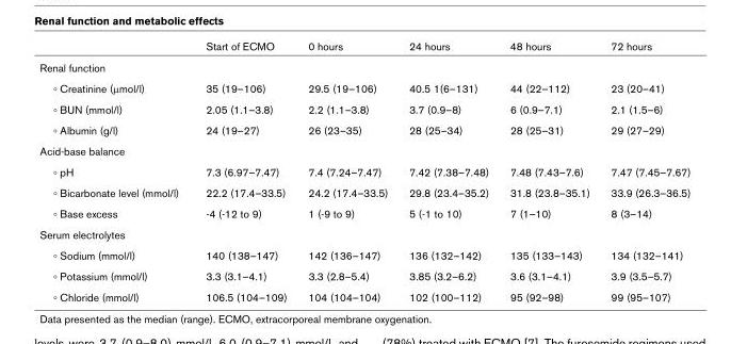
<table><thead><tr><td></td><td>Start of ECMO</td><td>0 hours</td><td>24 hours</td><td>48 hours</td><td>72 hours</td></tr></thead><tbody><tr><td colspan="6">Renal function</td></tr><tr><td>◦ Creatinine (μmol/l)</td><td>35 (19–106)</td><td>29.5 (19–106)</td><td>40.5 1(6–131)</td><td>44 (22–112)</td><td>23 (20–41)</td></tr><tr><td>◦ BUN (mmol/l)</td><td>2.05 (1.1–3.8)</td><td>2.2 (1.1–3.8)</td><td>3.7 (0.9–8)</td><td>6 (0.9–7.1)</td><td>2.1 (1.5–6)</td></tr><tr><td>◦ Albumin (g/l)</td><td>24 (19–27)</td><td>26 (23–35)</td><td>28 (25–34)</td><td>28 (25–31)</td><td>29 (27–29)</td></tr><tr><td colspan="6">Acid-base balance</td></tr><tr><td>◦ pH</td><td>7.3 (6.97–7.47)</td><td>7.4 (7.24–7.47)</td><td>7.42 (7.38–7.48)</td><td>7.48 (7.43–7.6)</td><td>7.47 (7.45–7.67)</td></tr><tr><td>◦ Bicarbonate level (mmol/l)</td><td>22.2 (17.4–33.5)</td><td>24.2 (17.4–33.5)</td><td>29.8 (23.4–35.2)</td><td>31.8 (23.8–35.1)</td><td>33.9 (26.3–36.5)</td></tr><tr><td>◦ Base excess</td><td>-4 (-12 to 9)</td><td>1 (-9 to 9)</td><td>5 (-1 to 10)</td><td>7 (1–10)</td><td>8 (3–14)</td></tr><tr><td colspan="6">Serum electrolytes</td></tr><tr><td>◦ Sodium (mmol/l)</td><td>140 (138–147)</td><td>142 (136–147)</td><td>136 (132–142)</td><td>135 (133–143)</td><td>134 (132–141)</td></tr><tr><td>◦ Potassium (mmol/l)</td><td>3.3 (3.1–4.1)</td><td>3.3 (2.8–5.4)</td><td>3.85 (3.2–6.2)</td><td>3.6 (3.1–4.1)</td><td>3.9 (3.5–5.7)</td></tr><tr><td>◦ Chloride (mmol/l)</td><td>106.5 (104–109)</td><td>104 (104–104)</td><td>102 (100–112)</td><td>95 (92–98)</td><td>99 (95–107)</td></tr></tbody></table>